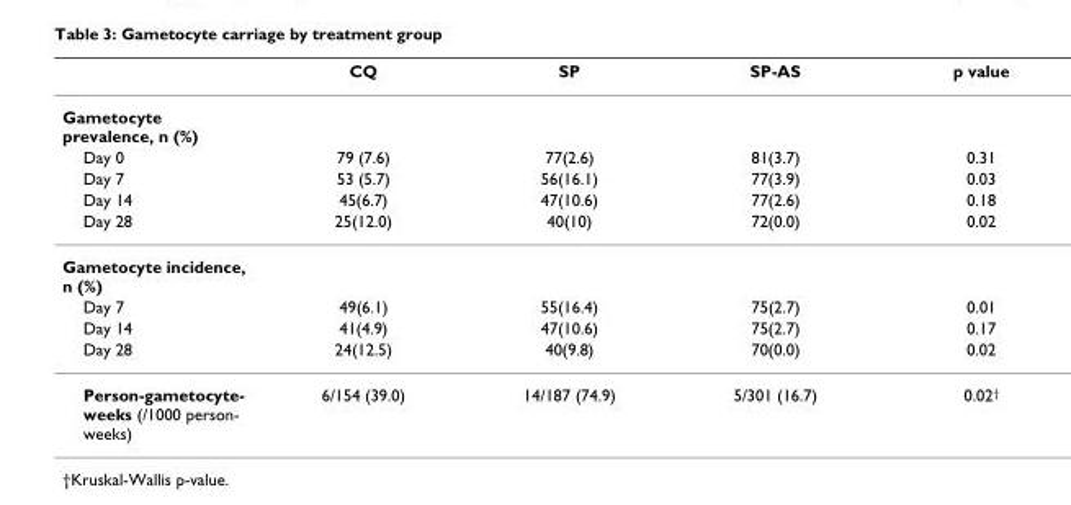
<table><thead><tr><td></td><td>CQ</td><td>SP</td><td>SP-AS</td><td>p value</td></tr></thead><tbody><tr><td colspan="5">Gametocyte prevalence, n (%)</td></tr><tr><td>Day 0</td><td>79 (7.6)</td><td>77(2.6)</td><td>81(3.7)</td><td>0.31</td></tr><tr><td>Day 7</td><td>53 (5.7)</td><td>56(16.1)</td><td>77(3.9)</td><td>0.03</td></tr><tr><td>Day 14</td><td>45(6.7)</td><td>47(10.6)</td><td>77(2.6)</td><td>0.18</td></tr><tr><td>Day 28</td><td>25(12.0)</td><td>40(10)</td><td>72(0.0)</td><td>0.02</td></tr><tr><td colspan="5">Gametocyte incidence, n (%)</td></tr><tr><td>Day 7</td><td>49(6.1)</td><td>55(16.4)</td><td>75(2.7)</td><td>0.01</td></tr><tr><td>Day 14</td><td>41(4.9)</td><td>47(10.6)</td><td>75(2.7)</td><td>0.17</td></tr><tr><td>Day 28</td><td>24(12.5)</td><td>40(9.8)</td><td>70(0.0)</td><td>0.02</td></tr><tr><td>Person-gametocyte- weeks (/1000 person- weeks)</td><td>6/154 (39.0)</td><td>14/187 (74.9)</td><td>5/301 (16.7)</td><td>0.02<sup>†</sup></td></tr></tbody></table>